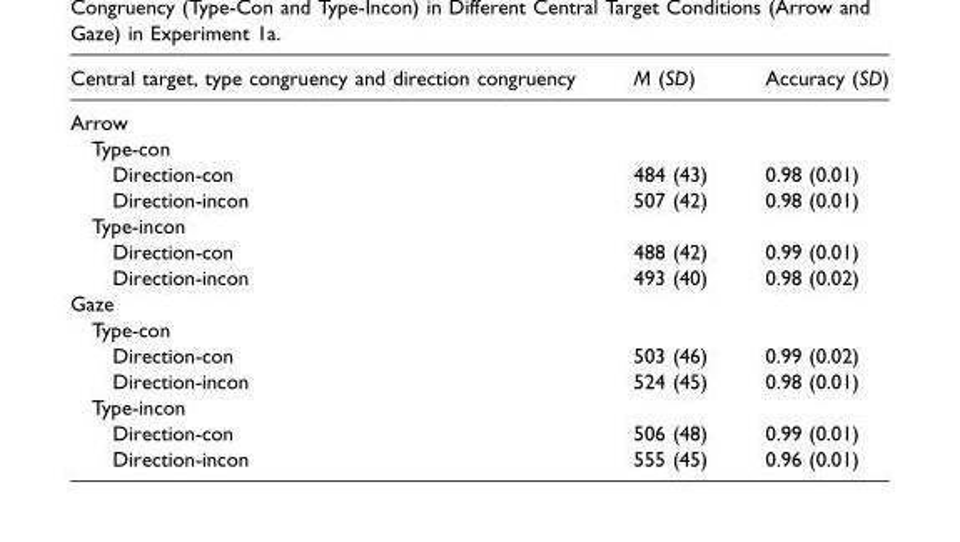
<table><thead><tr><td>Central target, type congruency and direction congruency</td><td>M (SD)</td><td>Accuracy (SD)</td></tr></thead><tbody><tr><td colspan="3">Arrow</td></tr><tr><td colspan="3">Type-con</td></tr><tr><td>Direction-con</td><td>484 (43)</td><td>0.98 (0.01)</td></tr><tr><td>Direction-incon</td><td>507 (42)</td><td>0.98 (0.01)</td></tr><tr><td colspan="3">Type-incon</td></tr><tr><td>Direction-con</td><td>488 (42)</td><td>0.99 (0.01)</td></tr><tr><td>Direction-incon</td><td>493 (40)</td><td>0.98 (0.02)</td></tr><tr><td colspan="3">Gaze</td></tr><tr><td colspan="3">Type-con</td></tr><tr><td>Direction-con</td><td>503 (46)</td><td>0.99 (0.02)</td></tr><tr><td>Direction-incon</td><td>524 (45)</td><td>0.98 (0.01)</td></tr><tr><td colspan="3">Type-incon</td></tr><tr><td>Direction-con</td><td>506 (48)</td><td>0.99 (0.01)</td></tr><tr><td>Direction-incon</td><td>555 (45)</td><td>0.96 (0.01)</td></tr></tbody></table>